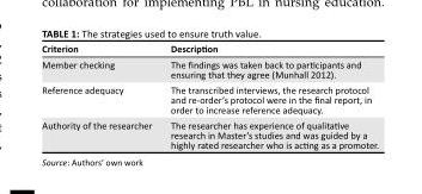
<table><thead><tr><td>Criterion</td><td>Description</td></tr></thead><tbody><tr><td>Member checking</td><td>The findings was taken back to participants and ensuring that they agree (Munhall 2012).</td></tr><tr><td>Reference adequacy</td><td>The transcribed interviews, the research protocol and re-order’s protocol were in the final report, in order to increase reference adequacy.</td></tr><tr><td>Authority of the researcher</td><td>The researcher has experience of qualitative research in Master’s studies and was guided by a highly rated researcher who is acting as a promoter.</td></tr></tbody></table>